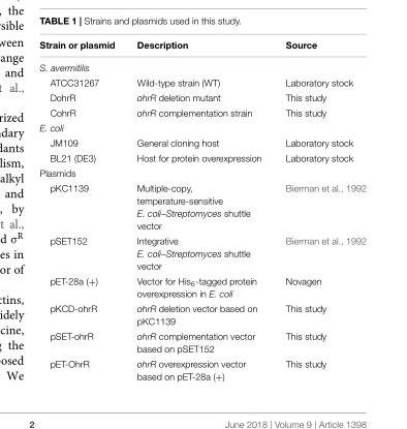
<table><thead><tr><td>Strain or plasmid</td><td>Description</td><td>Source</td></tr></thead><tbody><tr><td colspan="3">S. avermitilis</td></tr><tr><td>ATCC31267</td><td>Wild-type strain (WT)</td><td>Laboratory stock</td></tr><tr><td>DohrR</td><td>ohrR deletion mutant</td><td>This study</td></tr><tr><td>CohrR</td><td>ohrR complementation strain</td><td>This study</td></tr><tr><td colspan="3">E. coli</td></tr><tr><td>JM109</td><td>General cloning host</td><td>Laboratory stock</td></tr><tr><td>BL21 (DE3)</td><td>Host for protein overexpression</td><td>Laboratory stock</td></tr><tr><td colspan="3">Plasmids</td></tr><tr><td>pKC1139</td><td>Multiple-copy, temperature-sensitive E. coli–Streptomyces shuttle vector</td><td>Bierman et al., 1992</td></tr><tr><td>pSET152</td><td>Integrative E. coli–Streptomyces shuttle vector</td><td>Bierman et al., 1992</td></tr><tr><td>pET-28a (+)</td><td>Vector for His<sub>6</sub>-tagged protein overexpression in E. coli</td><td>Novagen</td></tr><tr><td>pKCD-ohrR</td><td>ohrR deletion vector based on pKC1139</td><td>This study</td></tr><tr><td>pSET-ohrR</td><td>ohrR complementation vector based on pSET152</td><td>This study</td></tr><tr><td>pET-OhrR</td><td>ohrR overexpression vector based on pET-28a (+)</td><td>This study</td></tr></tbody></table>